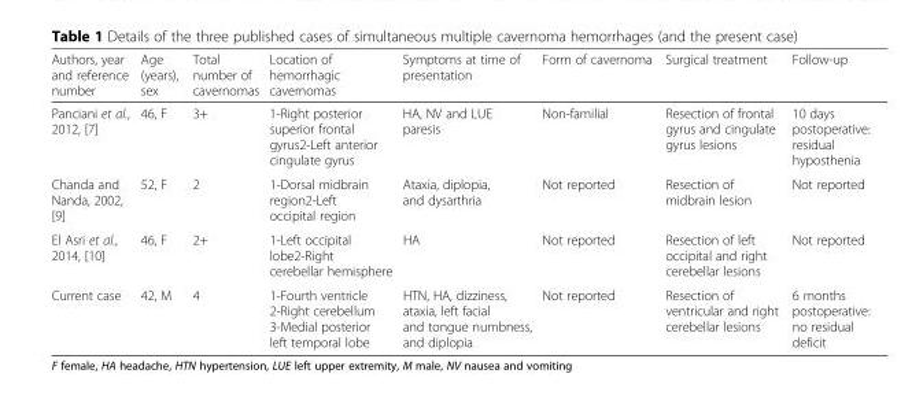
<table><thead><tr><td>Authors, year and reference number</td><td>Age (years), sex</td><td>Total number of cavernomas</td><td>Location of hemorrhagic cavernomas</td><td>Symptoms at time of presentation</td><td>Form of cavernoma</td><td>Surgical treatment</td><td>Follow-up</td></tr></thead><tbody><tr><td>Panciani et al., 2012, [7]</td><td>46, F</td><td>3+</td><td>1-Right posterior superior frontal gyrus2-Left anterior cingulate gyrus</td><td>HA, NV and LUE paresis</td><td>Non-familial</td><td>Resection of frontal gyrus and cingulate gyrus lesions</td><td>10 days postoperative: residual hyposthenia</td></tr><tr><td>Chanda and Nanda, 2002, [9]</td><td>52, F</td><td>2</td><td>1-Dorsal midbrain region2-Left occipital region</td><td>Ataxia, diplopia, and dysarthria</td><td>Not reported</td><td>Resection of midbrain lesion</td><td>Not reported</td></tr><tr><td>El Asri et al., 2014, [10]</td><td>46, F</td><td>2+</td><td>1-Left occipital lobe2-Right cerebellar hemisphere</td><td>HA</td><td>Not reported</td><td>Resection of left occipital and right cerebellar lesions</td><td>Not reported</td></tr><tr><td>Current case</td><td>42, M</td><td>4</td><td>1-Fourth ventricle 2-Right cerebellum 3-Medial posterior left temporal lobe</td><td>HTN, HA, dizziness, ataxia, left facial and tongue numbness, and diplopia</td><td>Not reported</td><td>Resection of ventricular and right cerebellar lesions</td><td>6 months postoperative: no residual deficit</td></tr></tbody></table>